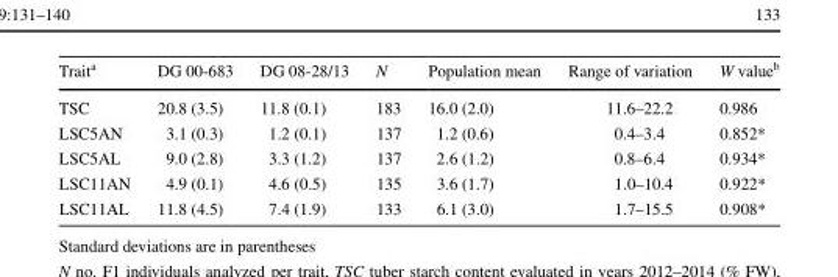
<table><thead><tr><td>Trait<sup>a</sup></td><td>DG 00-683</td><td>DG 08-28/13</td><td>N</td><td>Population mean</td><td>Range of variation</td><td>W value<sup>b</sup></td></tr></thead><tbody><tr><td>TSC</td><td>20.8 (3.5)</td><td>11.8 (0.1)</td><td>183</td><td>16.0 (2.0)</td><td>11.6–22.2</td><td>0.986</td></tr><tr><td>LSC5AN</td><td>3.1 (0.3)</td><td>1.2 (0.1)</td><td>137</td><td>1.2 (0.6)</td><td>0.4–3.4</td><td>0.852*</td></tr><tr><td>LSC5AL</td><td>9.0 (2.8)</td><td>3.3 (1.2)</td><td>137</td><td>2.6 (1.2)</td><td>0.8–6.4</td><td>0.934*</td></tr><tr><td>LSC11AN</td><td>4.9 (0.1)</td><td>4.6 (0.5)</td><td>135</td><td>3.6 (1.7)</td><td>1.0–10.4</td><td>0.922*</td></tr><tr><td>LSC11AL</td><td>11.8 (4.5)</td><td>7.4 (1.9)</td><td>133</td><td>6.1 (3.0)</td><td>1.7–15.5</td><td>0.908*</td></tr></tbody></table>